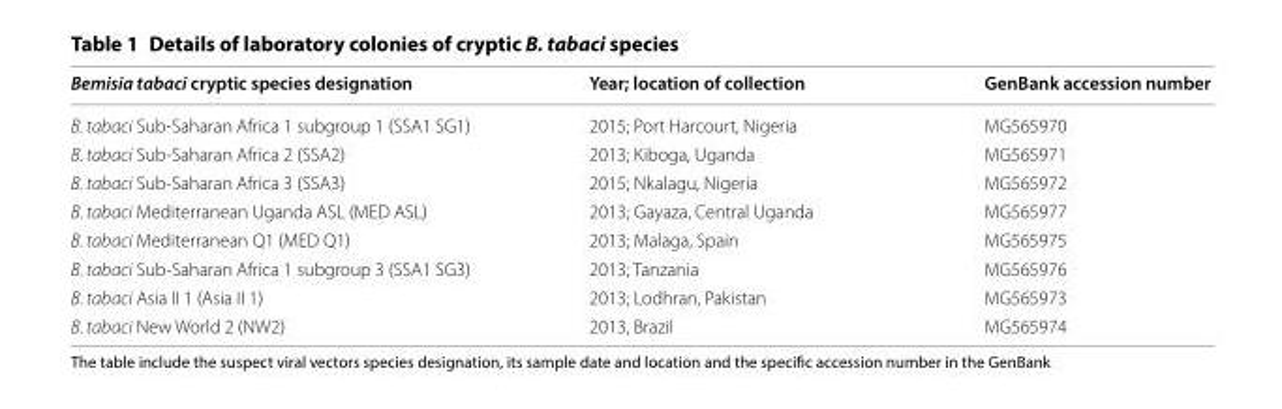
<table><thead><tr><td>Bemisia tabaci cryptic species designation</td><td>Year; location of collection</td><td>GenBank accession number</td></tr></thead><tbody><tr><td>B. tabaci Sub-Saharan Africa 1 subgroup 1 (SSA1 SG1)</td><td>2015; Port Harcourt, Nigeria</td><td>MG565970</td></tr><tr><td>B. tabaci Sub-Saharan Africa 2 (SSA2)</td><td>2013; Kiboga, Uganda</td><td>MG565971</td></tr><tr><td>B. tabaci Sub-Saharan Africa 3 (SSA3)</td><td>2015; Nkalagu, Nigeria</td><td>MG565972</td></tr><tr><td>B. tabaci Mediterranean Uganda ASL (MED ASL)</td><td>2013; Gayaza, Central Uganda</td><td>MG565977</td></tr><tr><td>B. tabaci Mediterranean Q1 (MED Q1)</td><td>2013; Malaga, Spain</td><td>MG565975</td></tr><tr><td>B. tabaci Sub-Saharan Africa 1 subgroup 3 (SSA1 SG3)</td><td>2013; Tanzania</td><td>MG565976</td></tr><tr><td>B. tabaci Asia II 1 (Asia II 1)</td><td>2013; Lodhran, Pakistan</td><td>MG565973</td></tr><tr><td>B. tabaci New World 2 (NW2)</td><td>2013, Brazil</td><td>MG565974</td></tr></tbody></table>